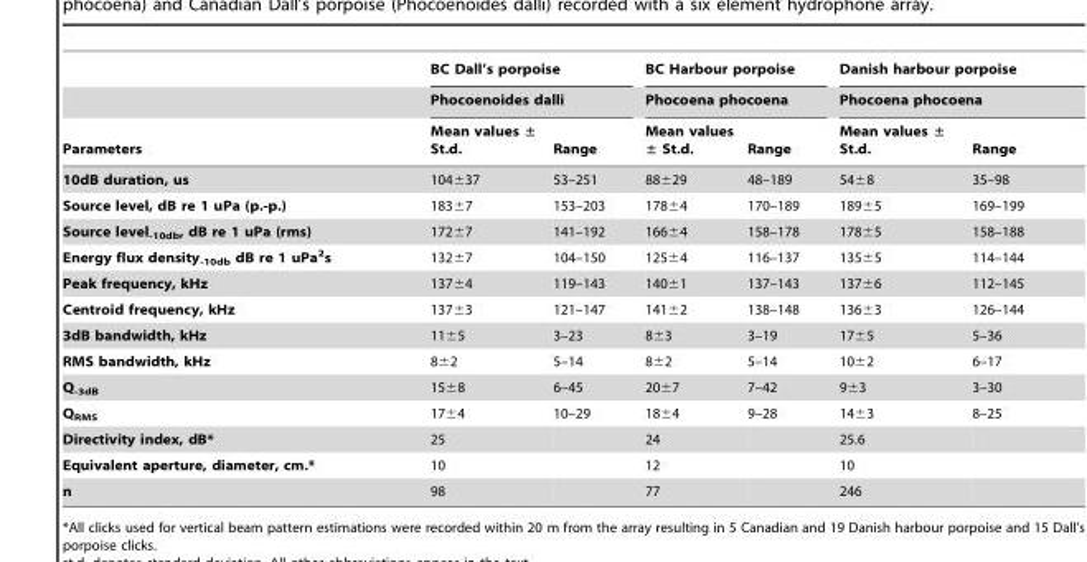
<table><thead><tr><td rowspan="3">Parameters</td><td rowspan="2" colspan="2">BC Dall’s porpoise Phocoenoides dalli</td><td rowspan="2" colspan="2">BC Harbour porpoise Phocoena phocoena</td><td rowspan="2" colspan="2">Danish harbour porpoise Phocoena phocoena</td></tr><tr></tr><tr><td>Mean values ± St.d.</td><td>Range</td><td>Mean values ± St.d.</td><td>Range</td><td>Mean values ± St.d.</td><td>Range</td></tr></thead><tbody><tr><td>10dB duration, us</td><td>104±37</td><td>53–251</td><td>88±29</td><td>48–189</td><td>54±8</td><td>35–98</td></tr><tr><td>Source level, dB re 1 uPa (p.-p.)</td><td>183±7</td><td>153–203</td><td>178±4</td><td>170–189</td><td>189±5</td><td>169–199</td></tr><tr><td>Source level<sub>-10db</sub>, dB re 1 uPa (rms)</td><td>172±7</td><td>141–192</td><td>166±4</td><td>158–178</td><td>178±5</td><td>158–188</td></tr><tr><td>Energy flux density<sub>-10db</sub> dB re 1 uPa<sup>2</sup>s</td><td>132±7</td><td>104–150</td><td>125±4</td><td>116–137</td><td>135±5</td><td>114–144</td></tr><tr><td>Peak frequency, kHz</td><td>137±4</td><td>119–143</td><td>140±1</td><td>137–143</td><td>137±6</td><td>112–145</td></tr><tr><td>Centroid frequency, kHz</td><td>137±3</td><td>121–147</td><td>141±2</td><td>138–148</td><td>136±3</td><td>126–144</td></tr><tr><td>3dB bandwidth, kHz</td><td>11±5</td><td>3–23</td><td>8±3</td><td>3–19</td><td>17±5</td><td>5–36</td></tr><tr><td>RMS bandwidth, kHz</td><td>8±2</td><td>5–14</td><td>8±2</td><td>5–14</td><td>10±2</td><td>6–17</td></tr><tr><td>Q<sub>-3dB</sub></td><td>15±8</td><td>6–45</td><td>20±7</td><td>7–42</td><td>9±3</td><td>3–30</td></tr><tr><td>Q<sub>RMS</sub></td><td>17±4</td><td>10–29</td><td>18±4</td><td>9–28</td><td>14±3</td><td>8–25</td></tr><tr><td>Directivity index, dB*</td><td>25</td><td></td><td>24</td><td></td><td>25.6</td><td></td></tr><tr><td>Equivalent aperture, diameter, cm.*</td><td>10</td><td></td><td>12</td><td></td><td>10</td><td></td></tr><tr><td>n</td><td>98</td><td></td><td>77</td><td></td><td>246</td><td></td></tr></tbody></table>